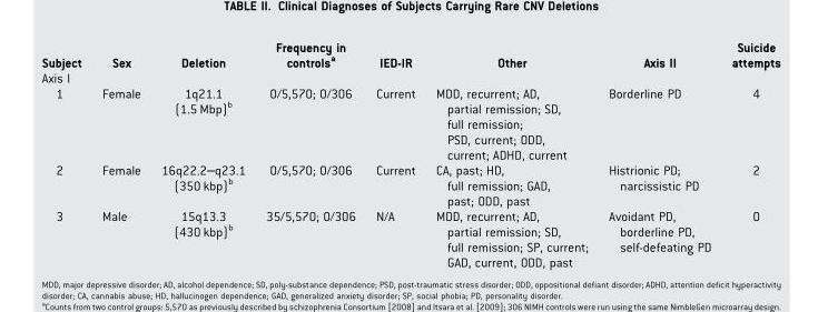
<table><thead><tr><td>Subject</td><td>Sex</td><td>Deletion</td><td>Frequency in controls<sup>a</sup></td><td>IED-IR</td><td>Other</td><td>Axis II</td><td>Suicide attempts</td></tr></thead><tbody><tr><td colspan="8">Axis I</td></tr><tr><td>1</td><td>Female</td><td>1q21.1 (1.5 Mbp)<sup>b</sup></td><td>0/5,570; 0/306</td><td>Current</td><td>MDD, recurrent; AD, partial remission; SD, full remission; PSD, current; ODD, current; ADHD, current</td><td>Borderline PD</td><td>4</td></tr><tr><td>2</td><td>Female</td><td>16q22.2–q23.1 (350 kbp)<sup>b</sup></td><td>0/5,570; 0/306</td><td>Current</td><td>CA, past; HD, full remission; GAD, past; ODD, past</td><td>Histrionic PD; narcissistic PD</td><td>2</td></tr><tr><td>3</td><td>Male</td><td>15q13.3 (430 kbp)<sup>b</sup></td><td>35/5,570; 0/306</td><td>N/A</td><td>MDD, recurrent; AD, partial remission; SD, full remission; SP, current; GAD, current, ODD, past</td><td>Avoidant PD, borderline PD, self-defeating PD</td><td>0</td></tr></tbody></table>